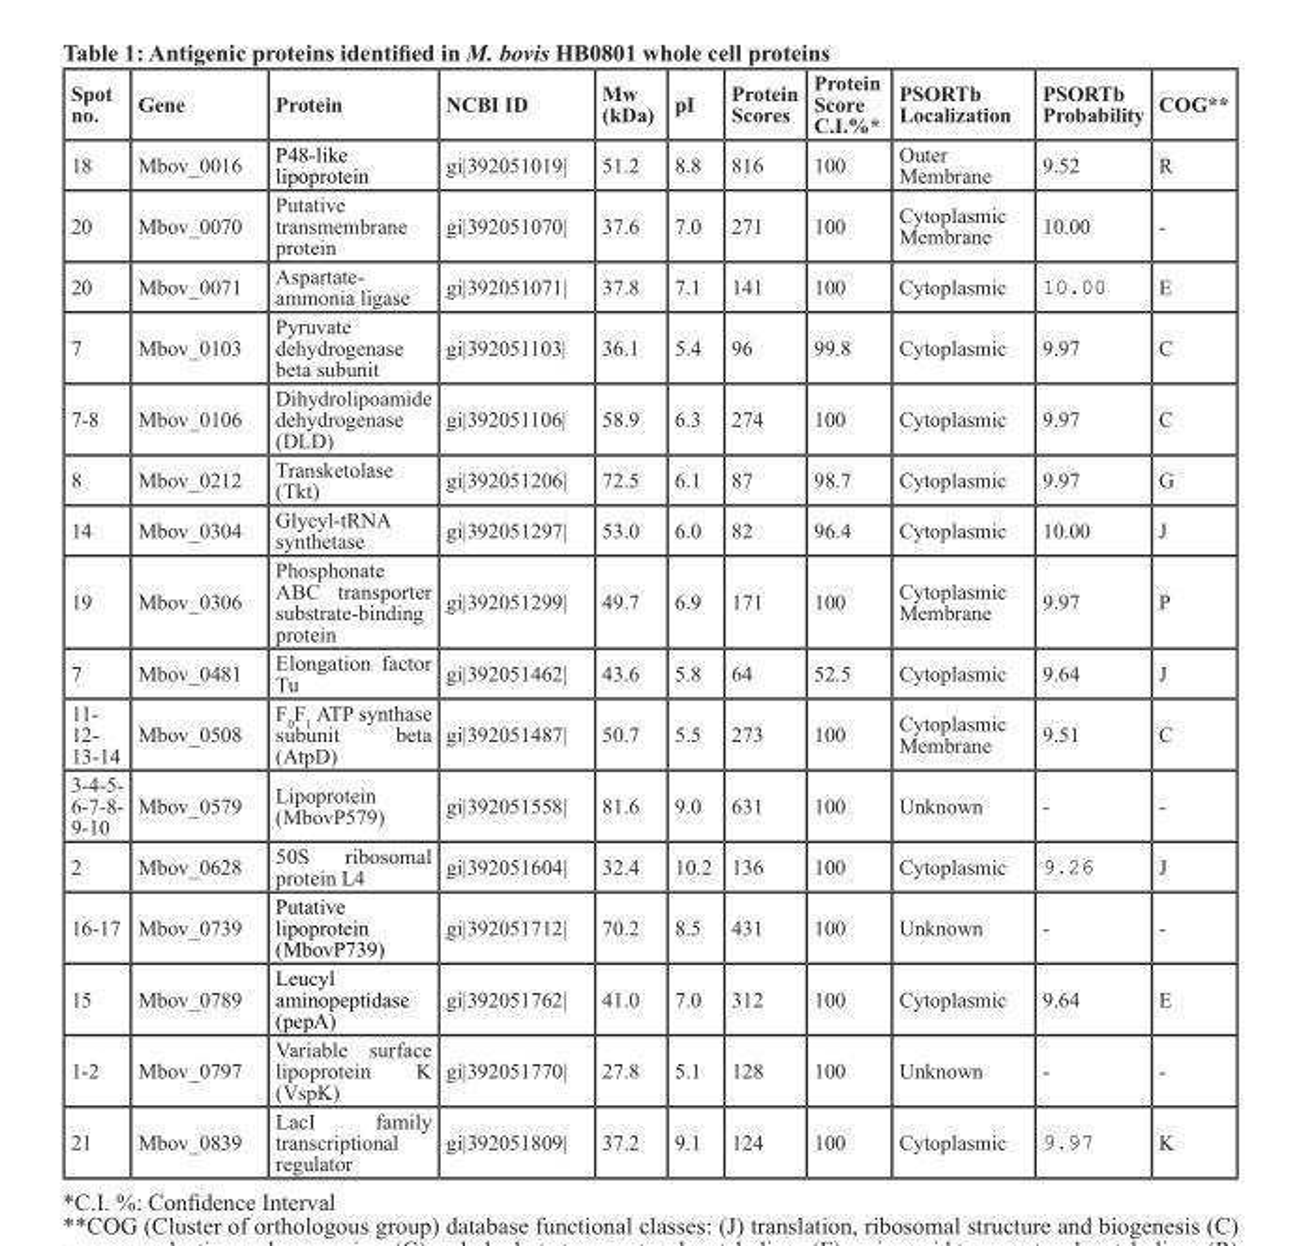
<table><thead><tr><td>Spot no.</td><td>Gene</td><td>Protein</td><td>NCBI ID</td><td>Mw (kDa)</td><td>pI</td><td>Protein Scores</td><td>Protein Score C.I.%*</td><td>PSORTb Localization</td><td>PSORTb Probability</td><td>COG**</td></tr></thead><tbody><tr><td>18</td><td>Mbov_0016</td><td>P48-like lipoprotein</td><td>gi|392051019|</td><td>51.2</td><td>8.8</td><td>816</td><td>100</td><td>Outer Membrane</td><td>9.52</td><td>R</td></tr><tr><td>20</td><td>Mbov_0070</td><td>Putative transmembrane protein</td><td>gi|392051070|</td><td>37.6</td><td>7.0</td><td>271</td><td>100</td><td>Cytoplasmic Membrane</td><td>10.00</td><td>-</td></tr><tr><td>20</td><td>Mbov_0071</td><td>Aspartate- ammonia ligase</td><td>gi|392051071|</td><td>37.8</td><td>7.1</td><td>141</td><td>100</td><td>Cytoplasmic</td><td>10.00</td><td>E</td></tr><tr><td>7</td><td>Mbov_0103</td><td>Pyruvate dehydrogenase beta subunit</td><td>gi|392051103|</td><td>36.1</td><td>5.4</td><td>96</td><td>99.8</td><td>Cytoplasmic</td><td>9.97</td><td>C</td></tr><tr><td>7-8</td><td>Mbov_0106</td><td>Dihydrolipoamide dehydrogenase (DLD)</td><td>gi|392051106|</td><td>58.9</td><td>6.3</td><td>274</td><td>100</td><td>Cytoplasmic</td><td>9.97</td><td>C</td></tr><tr><td>8</td><td>Mbov_0212</td><td>Transketolase (Tkt)</td><td>gi|392051206|</td><td>72.5</td><td>6.1</td><td>87</td><td>98.7</td><td>Cytoplasmic</td><td>9.97</td><td>G</td></tr><tr><td>14</td><td>Mbov_0304</td><td>Glycyl-tRNA synthetase</td><td>gi|392051297|</td><td>53.0</td><td>6.0</td><td>82</td><td>96.4</td><td>Cytoplasmic</td><td>10.00</td><td>J</td></tr><tr><td>19</td><td>Mbov_0306</td><td>Phosphonate ABC transporter substrate-binding protein</td><td>gi|392051299|</td><td>49.7</td><td>6.9</td><td>171</td><td>100</td><td>Cytoplasmic Membrane</td><td>9.97</td><td>P</td></tr><tr><td>7</td><td>Mbov_0481</td><td>Elongation factor Tu</td><td>gi|392051462|</td><td>43.6</td><td>5.8</td><td>64</td><td>52.5</td><td>Cytoplasmic</td><td>9.64</td><td>J</td></tr><tr><td>11- 12- 13-14</td><td>Mbov_0508</td><td>F<sub>0</sub>F<sub>1</sub> ATP synthase subunit beta (AtpD)</td><td>gi|392051487|</td><td>50.7</td><td>5.5</td><td>273</td><td>100</td><td>Cytoplasmic Membrane</td><td>9.51</td><td>C</td></tr><tr><td>3-4-5- 6-7-8- 9-10</td><td>Mbov_0579</td><td>Lipoprotein (MbovP579)</td><td>gi|392051558|</td><td>81.6</td><td>9.0</td><td>631</td><td>100</td><td>Unknown</td><td>-</td><td>-</td></tr><tr><td>2</td><td>Mbov_0628</td><td>50S ribosomal protein L4</td><td>gi|392051604|</td><td>32.4</td><td>10.2</td><td>136</td><td>100</td><td>Cytoplasmic</td><td>9.26</td><td>J</td></tr><tr><td>16-17</td><td>Mbov_0739</td><td>Putative lipoprotein (MbovP739)</td><td>gi|392051712|</td><td>70.2</td><td>8.5</td><td>431</td><td>100</td><td>Unknown</td><td>-</td><td>-</td></tr><tr><td>15</td><td>Mbov_0789</td><td>Leucyl aminopeptidase (pepA)</td><td>gi|392051762|</td><td>41.0</td><td>7.0</td><td>312</td><td>100</td><td>Cytoplasmic</td><td>9.64</td><td>E</td></tr><tr><td>1-2</td><td>Mbov_0797</td><td>Variable surface lipoprotein K (VspK)</td><td>gi|392051770|</td><td>27.8</td><td>5.1</td><td>128</td><td>100</td><td>Unknown</td><td>-</td><td>-</td></tr><tr><td>21</td><td>Mbov_0839</td><td>LacI family transcriptional regulator</td><td>gi|392051809|</td><td>37.2</td><td>9.1</td><td>124</td><td>100</td><td>Cytoplasmic</td><td>9.97</td><td>K</td></tr></tbody></table>